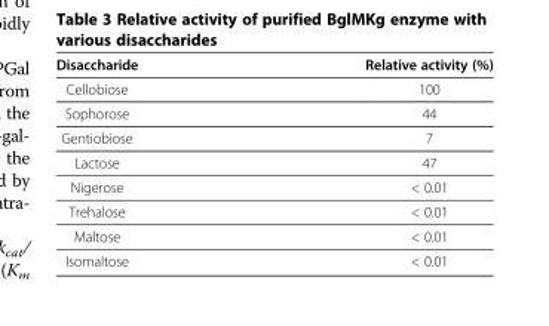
<table><thead><tr><td>Disaccharide</td><td>Relative activity (%)</td></tr></thead><tbody><tr><td>Cellobiose</td><td>100</td></tr><tr><td>Sophorose</td><td>44</td></tr><tr><td>Gentiobiose</td><td>7</td></tr><tr><td>Lactose</td><td>47</td></tr><tr><td>Nigerose</td><td>&lt; 0.01</td></tr><tr><td>Trehalose</td><td>&lt; 0.01</td></tr><tr><td>Maltose</td><td>&lt; 0.01</td></tr><tr><td>Isomaltose</td><td>&lt; 0.01</td></tr></tbody></table>